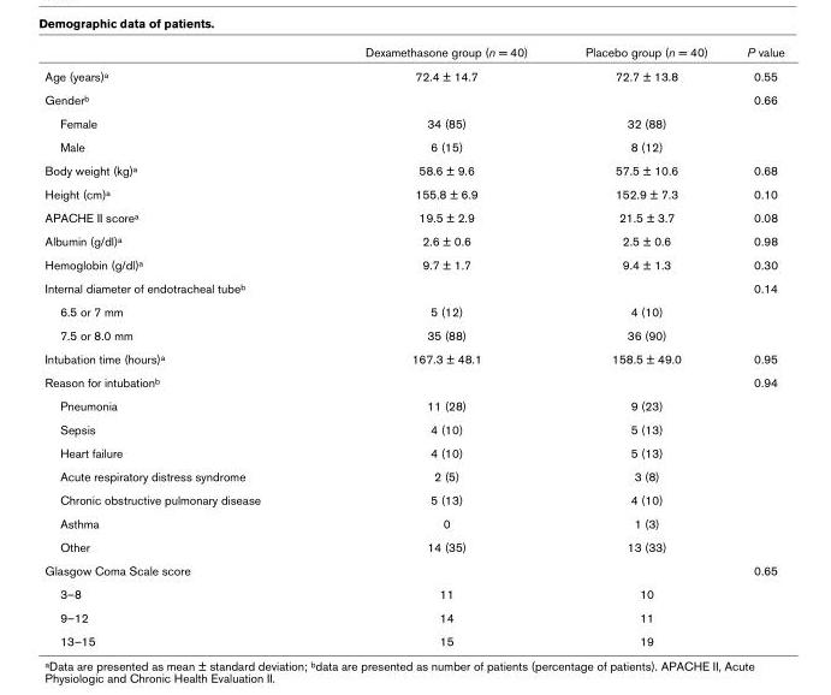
<table><thead><tr><td></td><td>Dexamethasone group (n = 40)</td><td>Placebo group (n = 40)</td><td>P value</td></tr></thead><tbody><tr><td>Age (years)<sup>a</sup></td><td>72.4 ± 14.7</td><td>72.7 ± 13.8</td><td>0.55</td></tr><tr><td>Gender<sup>b</sup></td><td></td><td></td><td>0.66</td></tr><tr><td>Female</td><td>34 (85)</td><td>32 (88)</td><td></td></tr><tr><td>Male</td><td>6 (15)</td><td>8 (12)</td><td></td></tr><tr><td>Body weight (kg)<sup>a</sup></td><td>58.6 ± 9.6</td><td>57.5 ± 10.6</td><td>0.68</td></tr><tr><td>Height (cm)<sup>a</sup></td><td>155.8 ± 6.9</td><td>152.9 ± 7.3</td><td>0.10</td></tr><tr><td>APACHE II score<sup>a</sup></td><td>19.5 ± 2.9</td><td>21.5 ± 3.7</td><td>0.08</td></tr><tr><td>Albumin (g/dl)<sup>a</sup></td><td>2.6 ± 0.6</td><td>2.5 ± 0.6</td><td>0.98</td></tr><tr><td>Hemoglobin (g/dl)<sup>a</sup></td><td>9.7 ± 1.7</td><td>9.4 ± 1.3</td><td>0.30</td></tr><tr><td>Internal diameter of endotracheal tube<sup>b</sup></td><td></td><td></td><td>0.14</td></tr><tr><td>6.5 or 7 mm</td><td>5 (12)</td><td>4 (10)</td><td></td></tr><tr><td>7.5 or 8.0 mm</td><td>35 (88)</td><td>36 (90)</td><td></td></tr><tr><td>Intubation time (hours)<sup>a</sup></td><td>167.3 ± 48.1</td><td>158.5 ± 49.0</td><td>0.95</td></tr><tr><td>Reason for intubation<sup>b</sup></td><td></td><td></td><td>0.94</td></tr><tr><td>Pneumonia</td><td>11 (28)</td><td>9 (23)</td><td></td></tr><tr><td>Sepsis</td><td>4 (10)</td><td>5 (13)</td><td></td></tr><tr><td>Heart failure</td><td>4 (10)</td><td>5 (13)</td><td></td></tr><tr><td>Acute respiratory distress syndrome</td><td>2 (5)</td><td>3 (8)</td><td></td></tr><tr><td>Chronic obstructive pulmonary disease</td><td>5 (13)</td><td>4 (10)</td><td></td></tr><tr><td>Asthma</td><td>0</td><td>1 (3)</td><td></td></tr><tr><td>Other</td><td>14 (35)</td><td>13 (33)</td><td></td></tr><tr><td>Glasgow Coma Scale score</td><td></td><td></td><td>0.65</td></tr><tr><td>3–8</td><td>11</td><td>10</td><td></td></tr><tr><td>9–12</td><td>14</td><td>11</td><td></td></tr><tr><td>13–15</td><td>15</td><td>19</td><td></td></tr></tbody></table>